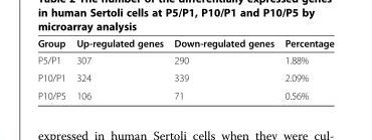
<table><thead><tr><td>Group</td><td>Up-regulated genes</td><td>Down-regulated genes</td><td>Percentage</td></tr></thead><tbody><tr><td>P5/P1</td><td>307</td><td>290</td><td>1.88%</td></tr><tr><td>P10/P1</td><td>324</td><td>339</td><td>2.09%</td></tr><tr><td>P10/P5</td><td>106</td><td>71</td><td>0.56%</td></tr></tbody></table>